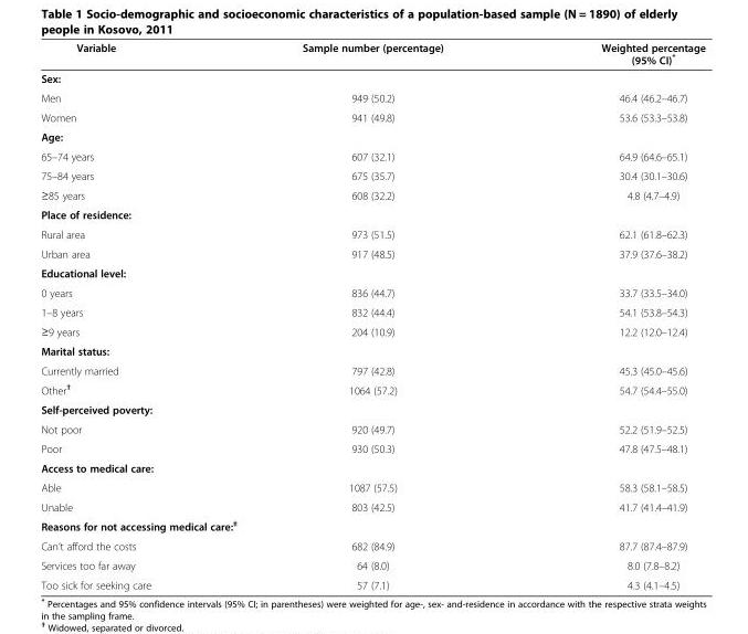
<table><thead><tr><td>Variable</td><td>Sample number (percentage)</td><td>Weighted percentage (95% CI)*</td></tr></thead><tbody><tr><td colspan="3">Sex:</td></tr><tr><td>Men</td><td>949 (50.2)</td><td>46.4 (46.2–46.7)</td></tr><tr><td>Women</td><td>941 (49.8)</td><td>53.6 (53.3–53.8)</td></tr><tr><td colspan="3">Age:</td></tr><tr><td>65–74 years</td><td>607 (32.1)</td><td>64.9 (64.6–65.1)</td></tr><tr><td>75–84 years</td><td>675 (35.7)</td><td>30.4 (30.1–30.6)</td></tr><tr><td>≥85 years</td><td>608 (32.2)</td><td>4.8 (4.7–4.9)</td></tr><tr><td colspan="3">Place of residence:</td></tr><tr><td>Rural area</td><td>973 (51.5)</td><td>62.1 (61.8–62.3)</td></tr><tr><td>Urban area</td><td>917 (48.5)</td><td>37.9 (37.6–38.2)</td></tr><tr><td colspan="3">Educational level:</td></tr><tr><td>0 years</td><td>836 (44.7)</td><td>33.7 (33.5–34.0)</td></tr><tr><td>1–8 years</td><td>832 (44.4)</td><td>54.1 (53.8–54.3)</td></tr><tr><td>≥9 years</td><td>204 (10.9)</td><td>12.2 (12.0–12.4)</td></tr><tr><td colspan="3">Marital status:</td></tr><tr><td>Currently married</td><td>797 (42.8)</td><td>45.3 (45.0–45.6)</td></tr><tr><td>Other<sup>†</sup></td><td>1064 (57.2)</td><td>54.7 (54.4–55.0)</td></tr><tr><td colspan="3">Self-perceived poverty:</td></tr><tr><td>Not poor</td><td>920 (49.7)</td><td>52.2 (51.9–52.5)</td></tr><tr><td>Poor</td><td>930 (50.3)</td><td>47.8 (47.5–48.1)</td></tr><tr><td colspan="3">Access to medical care:</td></tr><tr><td>Able</td><td>1087 (57.5)</td><td>58.3 (58.1–58.5)</td></tr><tr><td>Unable</td><td>803 (42.5)</td><td>41.7 (41.4–41.9)</td></tr><tr><td colspan="3">Reasons for not accessing medical care:<sup>‡</sup></td></tr><tr><td>Can’t afford the costs</td><td>682 (84.9)</td><td>87.7 (87.4–87.9)</td></tr><tr><td>Services too far away</td><td>64 (8.0)</td><td>8.0 (7.8–8.2)</td></tr><tr><td>Too sick for seeking care</td><td>57 (7.1)</td><td>4.3 (4.1–4.5)</td></tr></tbody></table>